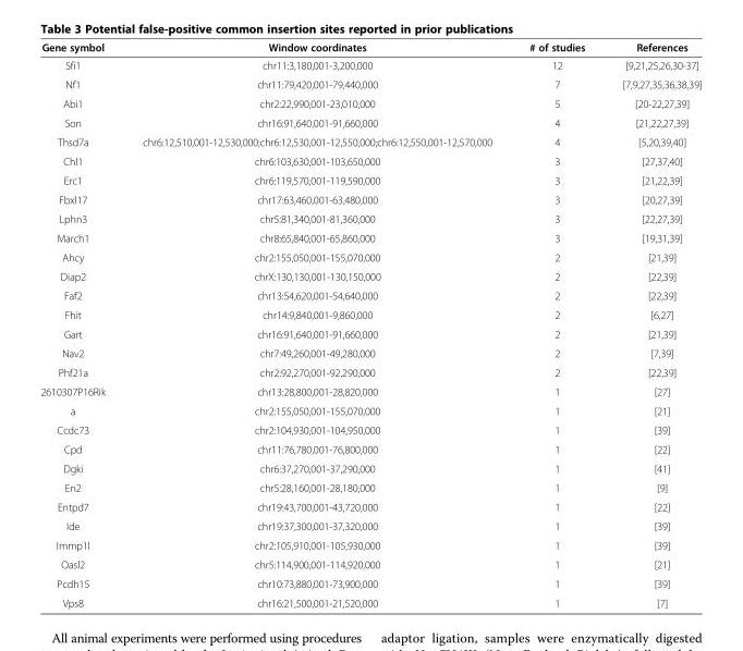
<table><thead><tr><td>Gene symbol</td><td>Window coordinates</td><td># of studies</td><td>References</td></tr></thead><tbody><tr><td>Sfi1</td><td>chr11:3,180,001-3,200,000</td><td>12</td><td>[9,21,25,26,30-37]</td></tr><tr><td>Nf1</td><td>chr11:79,420,001-79,440,000</td><td>7</td><td>[7,9,27,35,36,38,39]</td></tr><tr><td>Abi1</td><td>chr2:22,990,001-23,010,000</td><td>5</td><td>[20-22,27,39]</td></tr><tr><td>Son</td><td>chr16:91,640,001-91,660,000</td><td>4</td><td>[21,22,27,39]</td></tr><tr><td>Thsd7a</td><td>chr6:12,510,001-12,530,000;chr6:12,530,001-12,550,000;chr6:12,550,001-12,570,000</td><td>4</td><td>[5,20,39,40]</td></tr><tr><td>Chl1</td><td>chr6:103,630,001-103,650,000</td><td>3</td><td>[27,37,40]</td></tr><tr><td>Erc1</td><td>chr6:119,570,001-119,590,000</td><td>3</td><td>[21,22,39]</td></tr><tr><td>Fbxl17</td><td>chr17:63,460,001-63,480,000</td><td>3</td><td>[20,27,39]</td></tr><tr><td>Lphn3</td><td>chr5:81,340,001-81,360,000</td><td>3</td><td>[22,27,39]</td></tr><tr><td>March1</td><td>chr8:65,840,001-65,860,000</td><td>3</td><td>[19,31,39]</td></tr><tr><td>Ahcy</td><td>chr2:155,050,001-155,070,000</td><td>2</td><td>[21,39]</td></tr><tr><td>Diap2</td><td>chrX:130,130,001-130,150,000</td><td>2</td><td>[22,39]</td></tr><tr><td>Faf2</td><td>chr13:54,620,001-54,640,000</td><td>2</td><td>[22,39]</td></tr><tr><td>Fhit</td><td>chr14:9,840,001-9,860,000</td><td>2</td><td>[6,27]</td></tr><tr><td>Gart</td><td>chr16:91,640,001-91,660,000</td><td>2</td><td>[21,39]</td></tr><tr><td>Nav2</td><td>chr7:49,260,001-49,280,000</td><td>2</td><td>[7,39]</td></tr><tr><td>Phf21a</td><td>chr2:92,270,001-92,290,000</td><td>2</td><td>[22,39]</td></tr><tr><td>2610307P16Rik</td><td>chr13:28,800,001-28,820,000</td><td>1</td><td>[27]</td></tr><tr><td>a</td><td>chr2:155,050,001-155,070,000</td><td>1</td><td>[21]</td></tr><tr><td>Ccdc73</td><td>chr2:104,930,001-104,950,000</td><td>1</td><td>[39]</td></tr><tr><td>Cpd</td><td>chr11:76,780,001-76,800,000</td><td>1</td><td>[22]</td></tr><tr><td>Dgki</td><td>chr6:37,270,001-37,290,000</td><td>1</td><td>[41]</td></tr><tr><td>En2</td><td>chr5:28,160,001-28,180,000</td><td>1</td><td>[9]</td></tr><tr><td>Entpd7</td><td>chr19:43,700,001-43,720,000</td><td>1</td><td>[22]</td></tr><tr><td>Ide</td><td>chr19:37,300,001-37,320,000</td><td>1</td><td>[39]</td></tr><tr><td>Immp1l</td><td>chr2:105,910,001-105,930,000</td><td>1</td><td>[39]</td></tr><tr><td>Oasl2</td><td>chr5:114,900,001-114,920,000</td><td>1</td><td>[21]</td></tr><tr><td>Pcdh15</td><td>chr10:73,880,001-73,900,000</td><td>1</td><td>[39]</td></tr><tr><td>Vps8</td><td>chr16:21,500,001-21,520,000</td><td>1</td><td>[7]</td></tr></tbody></table>